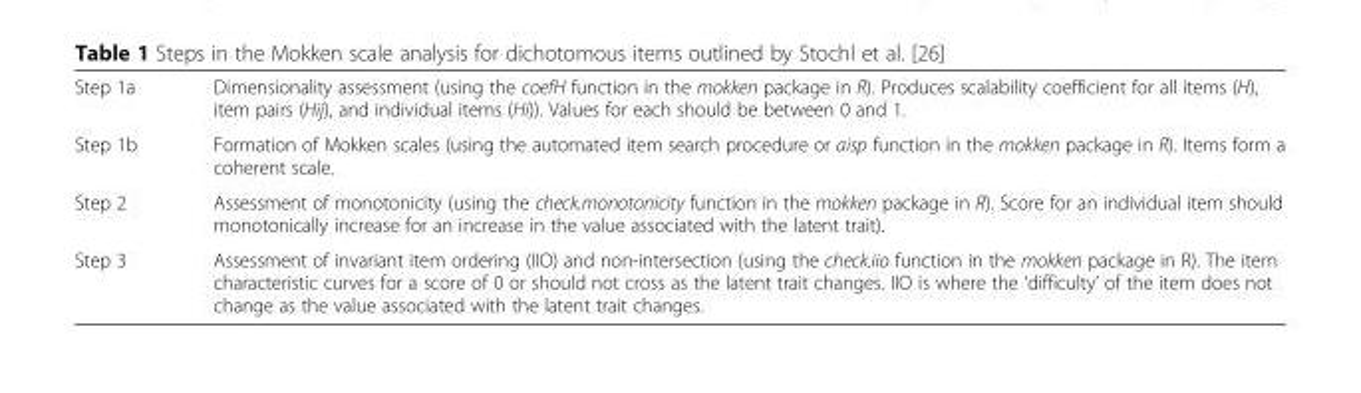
<table><tbody><tr><td>Step 1a</td><td>Dimensionality assessment (using the coefH function in the mokken package in R). Produces scalability coefficient for all items (H), item pairs (Hij), and individual items (Hi)). Values for each should be between 0 and 1.</td></tr><tr><td>Step 1b</td><td>Formation of Mokken scales (using the automated item search procedure or aisp function in the mokken package in R). Items form a coherent scale.</td></tr><tr><td>Step 2</td><td>Assessment of monotonicity (using the check.monotonicity function in the mokken package in R). Score for an individual item should monotonically increase for an increase in the value associated with the latent trait).</td></tr><tr><td>Step 3</td><td>Assessment of invariant item ordering (IIO) and non-intersection (using the check.iio function in the mokken package in R). The item characteristic curves for a score of 0 or should not cross as the latent trait changes. IIO is where the ‘difficulty’ of the item does not change as the value associated with the latent trait changes.</td></tr></tbody></table>